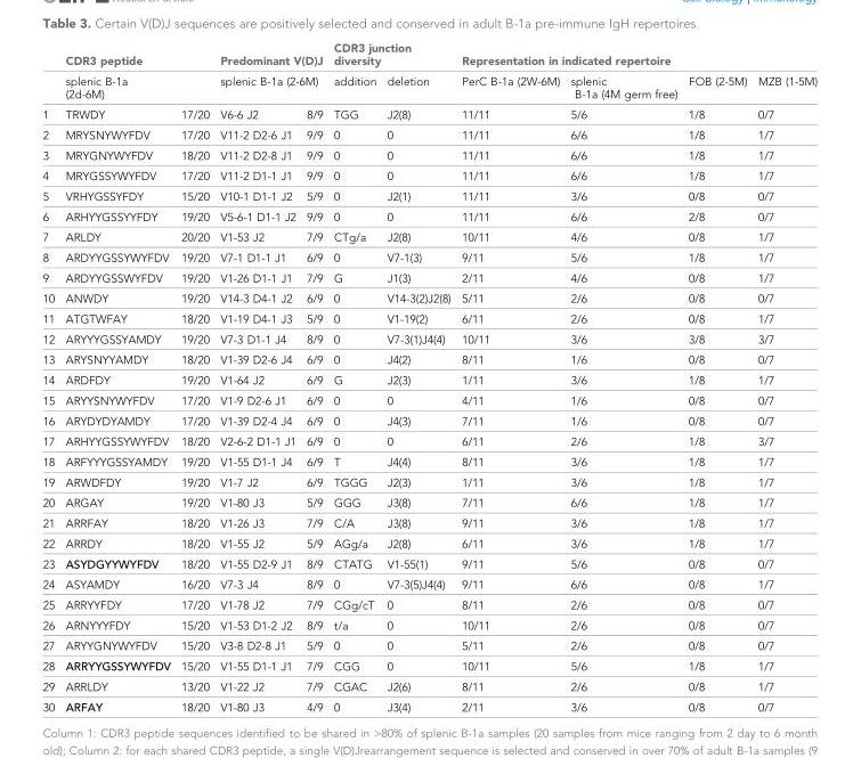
<table><thead><tr><td rowspan="3">1</td><td rowspan="2" colspan="2">CDR3 peptide splenic B-1a (2d-6M)</td><td rowspan="2" colspan="2">Predominant V(D)J splenic B-1a (2-6M)</td><td colspan="2">CDR3 junction diversity</td><td colspan="4">Representation in indicated repertoire</td></tr><tr><td rowspan="2">addition TGG</td><td rowspan="2">deletion J2(8)</td><td rowspan="2">PerC B-1a (2W-6M) 11/11</td><td rowspan="2">splenic B-1a (4M germ free) 5/6</td><td rowspan="2">FOB (2-5M) 1/8</td><td rowspan="2">MZB (1-5M) 0/7</td></tr><tr><td>TRWDY</td><td>17/20</td><td>V6-6 J2</td><td>8/9</td></tr></thead><tbody><tr><td>2</td><td>MRYSNYWYFDV</td><td>17/20</td><td>V11-2 D2-6 J1</td><td>9/9</td><td>0</td><td>0</td><td>11/11</td><td>6/6</td><td>1/8</td><td>1/7</td></tr><tr><td>3</td><td>MRYGNYWYFDV</td><td>18/20</td><td>V11-2 D2-8 J1</td><td>9/9</td><td>0</td><td>0</td><td>11/11</td><td>6/6</td><td>1/8</td><td>1/7</td></tr><tr><td>4</td><td>MRYGSSYWYFDV</td><td>17/20</td><td>V11-2 D1-1 J1</td><td>9/9</td><td>0</td><td>0</td><td>11/11</td><td>6/6</td><td>1/8</td><td>1/7</td></tr><tr><td>5</td><td>VRHYGSSYFDY</td><td>15/20</td><td>V10-1 D1-1 J2</td><td>5/9</td><td>0</td><td>J2(1)</td><td>11/11</td><td>3/6</td><td>0/8</td><td>0/7</td></tr><tr><td>6</td><td>ARHYYGSSYYFDY</td><td>19/20</td><td>V5-6-1 D1-1 J2</td><td>9/9</td><td>0</td><td>0</td><td>11/11</td><td>6/6</td><td>2/8</td><td>0/7</td></tr><tr><td>7</td><td>ARLDY</td><td>20/20</td><td>V1-53 J2</td><td>7/9</td><td>CTg/a</td><td>J2(8)</td><td>10/11</td><td>4/6</td><td>0/8</td><td>1/7</td></tr><tr><td>8</td><td>ARDYYGSSYWYFDV</td><td>19/20</td><td>V7-1 D1-1 J1</td><td>6/9</td><td>0</td><td>V7-1(3)</td><td>9/11</td><td>5/6</td><td>1/8</td><td>1/7</td></tr><tr><td>9</td><td>ARDYYGSSWYFDV</td><td>19/20</td><td>V1-26 D1-1 J1</td><td>7/9</td><td>G</td><td>J1(3)</td><td>2/11</td><td>4/6</td><td>0/8</td><td>1/7</td></tr><tr><td>10</td><td>ANWDY</td><td>19/20</td><td>V14-3 D4-1 J2</td><td>6/9</td><td>0</td><td>V14-3(2)J2(8)</td><td>5/11</td><td>2/6</td><td>0/8</td><td>0/7</td></tr><tr><td>11</td><td>ATGTWFAY</td><td>18/20</td><td>V1-19 D4-1 J3</td><td>5/9</td><td>0</td><td>V1-19(2)</td><td>6/11</td><td>2/6</td><td>0/8</td><td>1/7</td></tr><tr><td>12</td><td>ARYYYGSSYAMDY</td><td>19/20</td><td>V7-3 D1-1 J4</td><td>8/9</td><td>0</td><td>V7-3(1)J4(4)</td><td>10/11</td><td>3/6</td><td>3/8</td><td>3/7</td></tr><tr><td>13</td><td>ARYSNYYAMDY</td><td>18/20</td><td>V1-39 D2-6 J4</td><td>6/9</td><td>0</td><td>J4(2)</td><td>8/11</td><td>1/6</td><td>0/8</td><td>0/7</td></tr><tr><td>14</td><td>ARDFDY</td><td>19/20</td><td>V1-64 J2</td><td>6/9</td><td>G</td><td>J2(3)</td><td>1/11</td><td>3/6</td><td>1/8</td><td>1/7</td></tr><tr><td>15</td><td>ARYYSNYWYFDV</td><td>17/20</td><td>V1-9 D2-6 J1</td><td>6/9</td><td>0</td><td>0</td><td>4/11</td><td>1/6</td><td>0/8</td><td>0/7</td></tr><tr><td>16</td><td>ARYDYDYAMDY</td><td>17/20</td><td>V1-39 D2-4 J4</td><td>6/9</td><td>0</td><td>J4(3)</td><td>7/11</td><td>1/6</td><td>0/8</td><td>0/7</td></tr><tr><td>17</td><td>ARHYYGSSYWYFDV</td><td>18/20</td><td>V2-6-2 D1-1 J1</td><td>6/9</td><td>0</td><td>0</td><td>6/11</td><td>2/6</td><td>1/8</td><td>3/7</td></tr><tr><td>18</td><td>ARFYYYGSSYAMDY</td><td>19/20</td><td>V1-55 D1-1 J4</td><td>6/9</td><td>T</td><td>J4(4)</td><td>8/11</td><td>3/6</td><td>1/8</td><td>1/7</td></tr><tr><td>19</td><td>ARWDFDY</td><td>19/20</td><td>V1-7 J2</td><td>6/9</td><td>TGGG</td><td>J2(3)</td><td>1/11</td><td>3/6</td><td>1/8</td><td>1/7</td></tr><tr><td>20</td><td>ARGAY</td><td>19/20</td><td>V1-80 J3</td><td>5/9</td><td>GGG</td><td>J3(8)</td><td>7/11</td><td>6/6</td><td>1/8</td><td>1/7</td></tr><tr><td>21</td><td>ARRFAY</td><td>18/20</td><td>V1-26 J3</td><td>7/9</td><td>C/A</td><td>J3(8)</td><td>9/11</td><td>3/6</td><td>1/8</td><td>1/7</td></tr><tr><td>22</td><td>ARRDY</td><td>18/20</td><td>V1-55 J2</td><td>5/9</td><td>AGg/a</td><td>J2(8)</td><td>6/11</td><td>3/6</td><td>1/8</td><td>1/7</td></tr><tr><td>23</td><td>ASYDGYYWYFDV</td><td>18/20</td><td>V1-55 D2-9 J1</td><td>8/9</td><td>CTATG</td><td>V1-55(1)</td><td>9/11</td><td>5/6</td><td>0/8</td><td>0/7</td></tr><tr><td>24</td><td>ASYAMDY</td><td>16/20</td><td>V7-3 J4</td><td>8/9</td><td>0</td><td>V7-3(5)J4(4)</td><td>9/11</td><td>6/6</td><td>0/8</td><td>1/7</td></tr><tr><td>25</td><td>ARRYYFDY</td><td>17/20</td><td>V1-78 J2</td><td>7/9</td><td>CGg/cT</td><td>0</td><td>8/11</td><td>2/6</td><td>0/8</td><td>0/7</td></tr><tr><td>26</td><td>ARNYYYFDY</td><td>15/20</td><td>V1-53 D1-2 J2</td><td>8/9</td><td>t/a</td><td>0</td><td>10/11</td><td>2/6</td><td>0/8</td><td>0/7</td></tr><tr><td>27</td><td>ARYYGNYWYFDV</td><td>15/20</td><td>V3-8 D2-8 J1</td><td>5/9</td><td>0</td><td>0</td><td>5/11</td><td>2/6</td><td>0/8</td><td>0/7</td></tr><tr><td>28</td><td>ARRYYGSSYWYFDV</td><td>15/20</td><td>V1-55 D1-1 J1</td><td>7/9</td><td>CGG</td><td>0</td><td>10/11</td><td>5/6</td><td>1/8</td><td>1/7</td></tr><tr><td>29</td><td>ARRLDY</td><td>13/20</td><td>V1-22 J2</td><td>7/9</td><td>CGAC</td><td>J2(6)</td><td>8/11</td><td>2/6</td><td>0/8</td><td>1/7</td></tr><tr><td>30</td><td>ARFAY</td><td>18/20</td><td>V1-80 J3</td><td>4/9</td><td>0</td><td>J3(4)</td><td>2/11</td><td>3/6</td><td>0/8</td><td>0/7</td></tr></tbody></table>